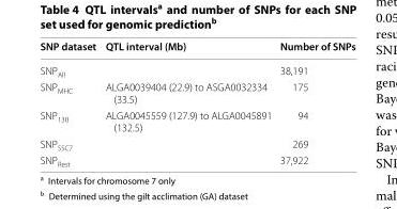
<table><thead><tr><td>SNP dataset</td><td>QTL interval (Mb)</td><td>Number of SNPs</td></tr></thead><tbody><tr><td>SNP<sub>All</sub></td><td></td><td>38,191</td></tr><tr><td>SNP<sub>MHC</sub></td><td>ALGA0039404 (22.9) to ASGA0032334 (33.5)</td><td>175</td></tr><tr><td>SNP<sub>130</sub></td><td>ALGA0045559 (127.9) to ALGA0045891 (132.5)</td><td>94</td></tr><tr><td>SNP<sub>SSC7</sub></td><td></td><td>269</td></tr><tr><td>SNP<sub>Rest</sub></td><td></td><td>37,922</td></tr></tbody></table>